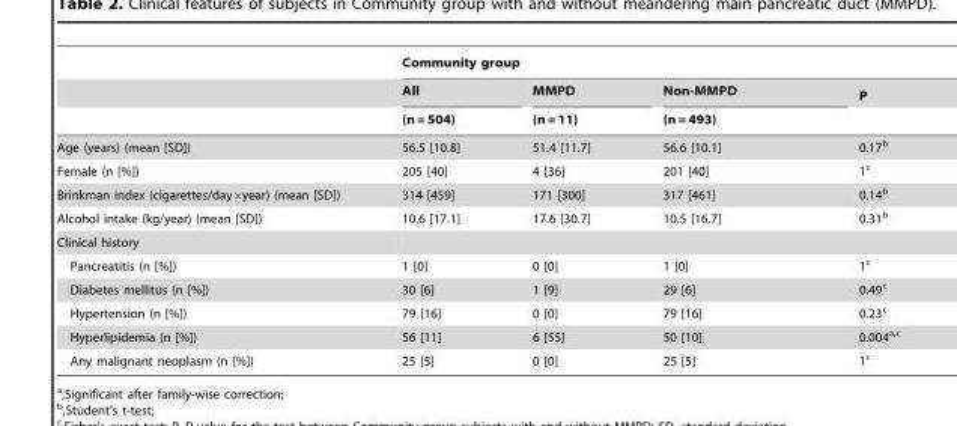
<table><thead><tr><td rowspan="3"></td><td colspan="4">Community group</td></tr><tr><td rowspan="2">All (n = 504)</td><td rowspan="2">MMPD (n = 11)</td><td rowspan="2">Non-MMPD (n = 493)</td><td rowspan="2">P</td></tr><tr></tr></thead><tbody><tr><td>Age (years) (mean [SD])</td><td>56.5 [10.8]</td><td>51.4 [11.7]</td><td>56.6 [10.1]</td><td>0.17<sup>b</sup></td></tr><tr><td>Female (n [%])</td><td>205 [40]</td><td>4 [36]</td><td>201 [40]</td><td>1<sup>c</sup></td></tr><tr><td>Brinkman index (cigarettes/day×year) (mean [SD])</td><td>314 [459]</td><td>171 [300]</td><td>317 [461]</td><td>0.14<sup>b</sup></td></tr><tr><td>Alcohol intake (kg/year) (mean [SD])</td><td>10.6 [17.1]</td><td>17.6 [30.7]</td><td>10.5 [16.7]</td><td>0.31<sup>b</sup></td></tr><tr><td colspan="5">Clinical history</td></tr><tr><td>Pancreatitis (n [%])</td><td>1 [0]</td><td>0 [0]</td><td>1 [0]</td><td>1<sup>c</sup></td></tr><tr><td>Diabetes mellitus (n [%])</td><td>30 [6]</td><td>1 [9]</td><td>29 [6]</td><td>0.49<sup>c</sup></td></tr><tr><td>Hypertension (n [%])</td><td>79 [16]</td><td>0 [0]</td><td>79 [16]</td><td>0.23<sup>c</sup></td></tr><tr><td>Hyperlipidemia (n [%])</td><td>56 [11]</td><td>6 [55]</td><td>50 [10]</td><td>0.004a,c</td></tr><tr><td>Any malignant neoplasm (n [%])</td><td>25 [5]</td><td>0 [0]</td><td>25 [5]</td><td>1<sup>c</sup></td></tr></tbody></table>